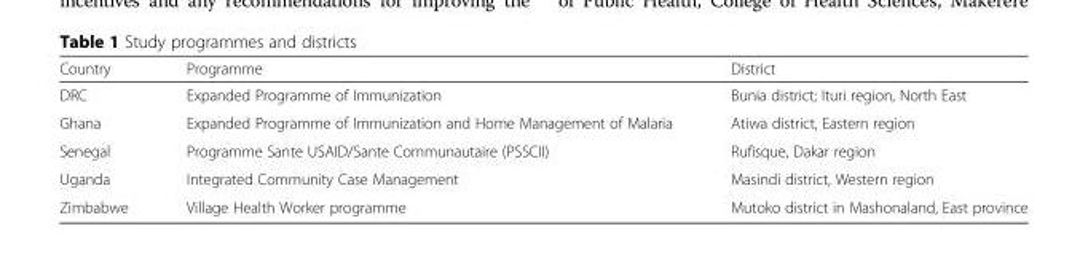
<table><thead><tr><td>Country</td><td>Programme</td><td>District</td></tr></thead><tbody><tr><td>DRC</td><td>Expanded Programme of Immunization</td><td>Bunia district; Ituri region, North East</td></tr><tr><td>Ghana</td><td>Expanded Programme of Immunization and Home Management of Malaria</td><td>Atiwa district, Eastern region</td></tr><tr><td>Senegal</td><td>Programme Sante USAID/Sante Communautaire (PSSCII)</td><td>Rufisque, Dakar region</td></tr><tr><td>Uganda</td><td>Integrated Community Case Management</td><td>Masindi district, Western region</td></tr><tr><td>Zimbabwe</td><td>Village Health Worker programme</td><td>Mutoko district in Mashonaland, East province</td></tr></tbody></table>